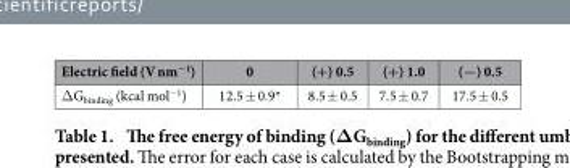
<table><thead><tr><td>Electric field (V nm<sup>−1</sup>)</td><td>0</td><td>(+) 0.5</td><td>(+) 1.0</td><td>(−) 0.5</td></tr></thead><tbody><tr><td>Δ G<sub>binding</sub> (kcal mol<sup>−1</sup>)</td><td>12.5 ± 0.9*</td><td>8.5 ± 0.5</td><td>7.5 ± 0.7</td><td>17.5 ± 0.5</td></tr></tbody></table>